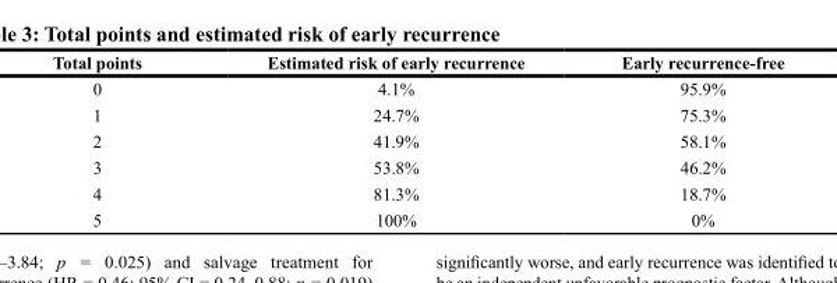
<table><thead><tr><td>Total points</td><td>Estimated risk of early recurrence</td><td>Early recurrence-free</td></tr></thead><tbody><tr><td>0</td><td>4.1%</td><td>95.9%</td></tr><tr><td>1</td><td>24.7%</td><td>75.3%</td></tr><tr><td>2</td><td>41.9%</td><td>58.1%</td></tr><tr><td>3</td><td>53.8%</td><td>46.2%</td></tr><tr><td>4</td><td>81.3%</td><td>18.7%</td></tr><tr><td>5</td><td>100%</td><td>0%</td></tr></tbody></table>